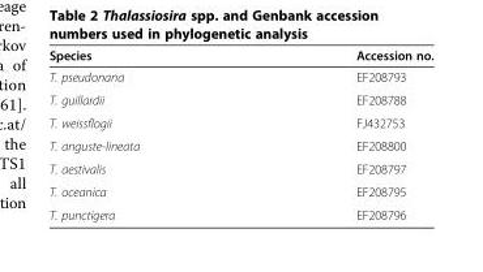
<table><thead><tr><td>Species</td><td>Accession no.</td></tr></thead><tbody><tr><td>T. pseudonana</td><td>EF208793</td></tr><tr><td>T. guillardii</td><td>EF208788</td></tr><tr><td>T. weissflogii</td><td>FJ432753</td></tr><tr><td>T. anguste-lineata</td><td>EF208800</td></tr><tr><td>T. aestivalis</td><td>EF208797</td></tr><tr><td>T. oceanica</td><td>EF208795</td></tr><tr><td>T. punctigera</td><td>EF208796</td></tr></tbody></table>